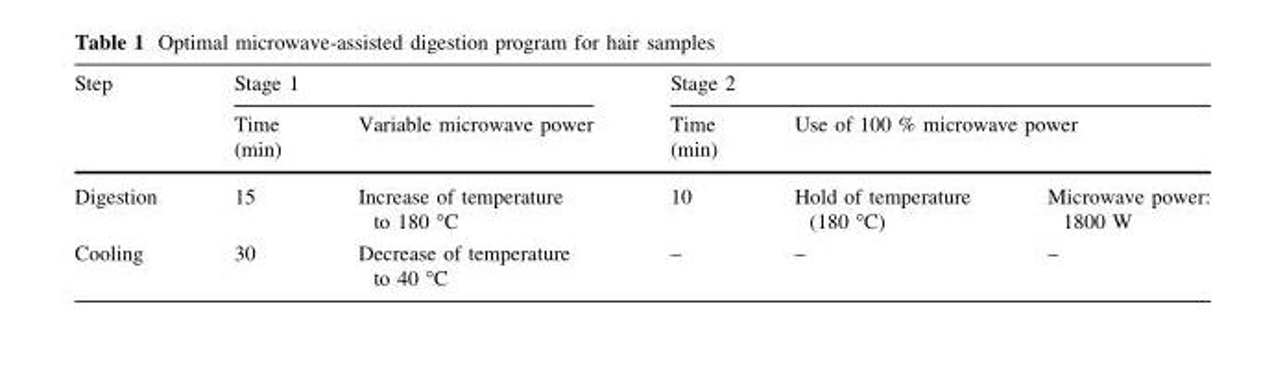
<table><thead><tr><td rowspan="3">Step Digestion</td><td colspan="2">Stage 1</td><td colspan="3">Stage 2</td></tr><tr><td rowspan="2">Time (min) 15</td><td rowspan="2">Variable microwave power Increase of temperature to 180 °C</td><td rowspan="2">Time (min) 10</td><td colspan="2">Use of 100 % microwave power</td></tr><tr><td>Hold of temperature (180 °C)</td><td>Microwave power: 1800 W</td></tr></thead><tbody><tr><td>Cooling</td><td>30</td><td>Decrease of temperature to 40 °C</td><td>–</td><td>–</td><td>–</td></tr></tbody></table>